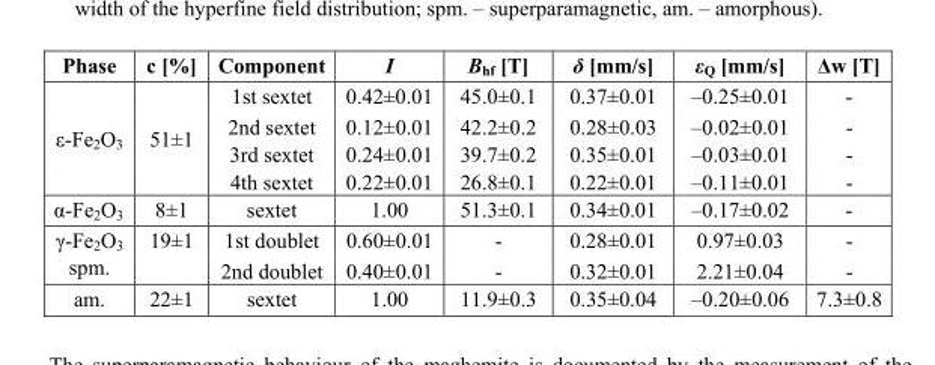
<table><thead><tr><td>Phase</td><td>c [%]</td><td>Component</td><td>I</td><td>B<sub>hf</sub> [T]</td><td>δ [mm/s]</td><td>ε<sub>Q</sub> [mm/s]</td><td>Δw [T]</td></tr></thead><tbody><tr><td rowspan="4">ε-Fe<sub>2</sub>O<sub>3</sub></td><td rowspan="4">51±1</td><td>1st sextet</td><td>0.42±0.01</td><td>45.0±0.1</td><td>0.37±0.01</td><td>–0.25±0.01</td><td>-</td></tr><tr><td>2nd sextet</td><td>0.12±0.01</td><td>42.2±0.2</td><td>0.28±0.03</td><td>–0.02±0.01</td><td>-</td></tr><tr><td>3rd sextet</td><td>0.24±0.01</td><td>39.7±0.2</td><td>0.35±0.01</td><td>–0.03±0.01</td><td>-</td></tr><tr><td>4th sextet</td><td>0.22±0.01</td><td>26.8±0.1</td><td>0.22±0.01</td><td>–0.11±0.01</td><td>-</td></tr><tr><td>α-Fe<sub>2</sub>O<sub>3</sub></td><td>8±1</td><td>sextet</td><td>1.00</td><td>51.3±0.1</td><td>0.34±0.01</td><td>–0.17±0.02</td><td>-</td></tr><tr><td rowspan="2">γ-Fe<sub>2</sub>O<sub>3</sub> spm.</td><td rowspan="2">19±1</td><td>1st doublet</td><td>0.60±0.01</td><td>-</td><td>0.28±0.01</td><td>0.97±0.03</td><td>-</td></tr><tr><td>2nd doublet</td><td>0.40±0.01</td><td>-</td><td>0.32±0.01</td><td>2.21±0.04</td><td>-</td></tr><tr><td>am.</td><td>22±1</td><td>sextet</td><td>1.00</td><td>11.9±0.3</td><td>0.35±0.04</td><td>–0.20±0.06</td><td>7.3±0.8</td></tr></tbody></table>